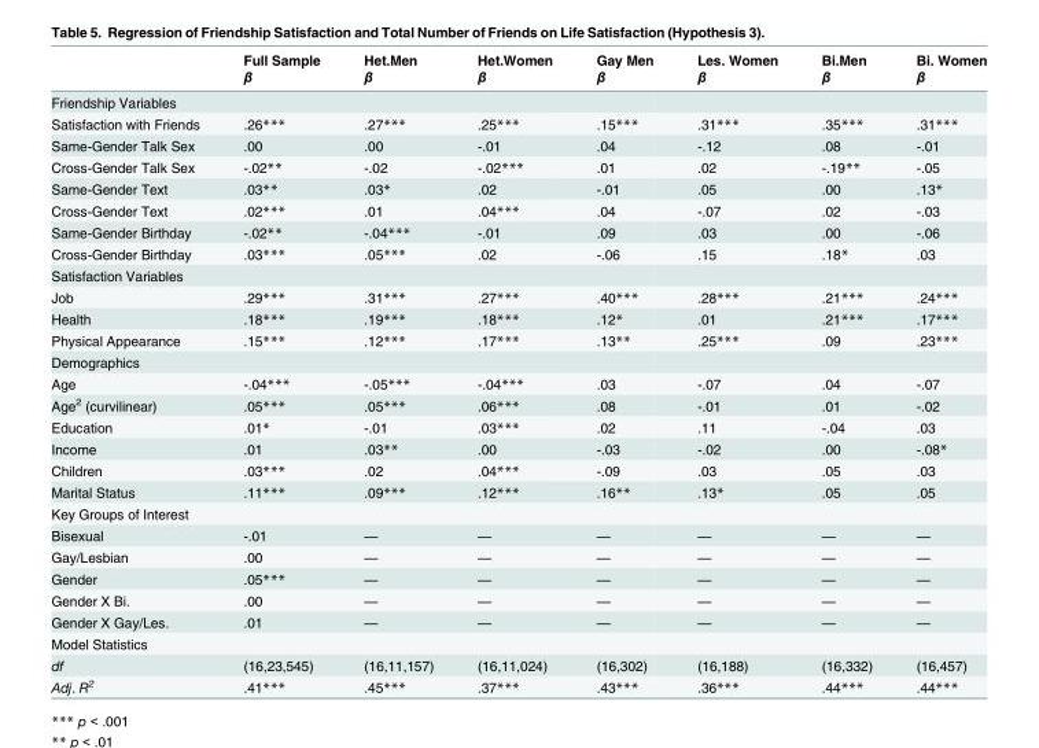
<table><thead><tr><td rowspan="2"></td><td rowspan="2">Full Sample β</td><td rowspan="2">Het.Men β</td><td rowspan="2">Het.Women β</td><td rowspan="2">Gay Men β</td><td rowspan="2">Les. Women β</td><td rowspan="2">Bi.Men β</td><td rowspan="2">Bi. Women β</td></tr><tr></tr></thead><tbody><tr><td colspan="8">Friendship Variables</td></tr><tr><td>Satisfaction with Friends</td><td>.26***</td><td>.27***</td><td>.25***</td><td>.15***</td><td>.31***</td><td>.35***</td><td>.31***</td></tr><tr><td>Same-Gender Talk Sex</td><td>.00</td><td>.00</td><td>-.01</td><td>.04</td><td>-.12</td><td>.08</td><td>-.01</td></tr><tr><td>Cross-Gender Talk Sex</td><td>-.02**</td><td>-.02</td><td>-.02***</td><td>.01</td><td>.02</td><td>-.19**</td><td>-.05</td></tr><tr><td>Same-Gender Text</td><td>.03**</td><td>.03*</td><td>.02</td><td>-.01</td><td>.05</td><td>.00</td><td>.13*</td></tr><tr><td>Cross-Gender Text</td><td>.02***</td><td>.01</td><td>.04***</td><td>.04</td><td>-.07</td><td>.02</td><td>-.03</td></tr><tr><td>Same-Gender Birthday</td><td>-.02**</td><td>-.04***</td><td>-.01</td><td>.09</td><td>.03</td><td>.00</td><td>-.06</td></tr><tr><td>Cross-Gender Birthday</td><td>.03***</td><td>.05***</td><td>.02</td><td>-.06</td><td>.15</td><td>.18*</td><td>.03</td></tr><tr><td colspan="8">Satisfaction Variables</td></tr><tr><td>Job</td><td>.29***</td><td>.31***</td><td>.27***</td><td>.40***</td><td>.28***</td><td>.21***</td><td>.24***</td></tr><tr><td>Health</td><td>.18***</td><td>.19***</td><td>.18***</td><td>.12*</td><td>.01</td><td>.21***</td><td>.17***</td></tr><tr><td>Physical Appearance</td><td>.15***</td><td>.12***</td><td>.17***</td><td>.13**</td><td>.25***</td><td>.09</td><td>.23***</td></tr><tr><td colspan="8">Demographics</td></tr><tr><td>Age</td><td>-.04***</td><td>-.05***</td><td>-.04***</td><td>.03</td><td>-.07</td><td>.04</td><td>-.07</td></tr><tr><td>Age<sup>2</sup> (curvilinear)</td><td>.05***</td><td>.05***</td><td>.06***</td><td>.08</td><td>-.01</td><td>.01</td><td>-.02</td></tr><tr><td>Education</td><td>.01*</td><td>-.01</td><td>.03***</td><td>.02</td><td>.11</td><td>-.04</td><td>.03</td></tr><tr><td>Income</td><td>.01</td><td>.03**</td><td>.00</td><td>-.03</td><td>-.02</td><td>.00</td><td>-.08*</td></tr><tr><td>Children</td><td>.03***</td><td>.02</td><td>.04***</td><td>-.09</td><td>.03</td><td>.05</td><td>.03</td></tr><tr><td>Marital Status</td><td>.11***</td><td>.09***</td><td>.12***</td><td>.16**</td><td>.13*</td><td>.05</td><td>.05</td></tr><tr><td colspan="8">Key Groups of Interest</td></tr><tr><td>Bisexual</td><td>-.01</td><td>—</td><td>—</td><td>—</td><td>—</td><td>—</td><td>—</td></tr><tr><td>Gay/Lesbian</td><td>.00</td><td>—</td><td>—</td><td>—</td><td>—</td><td>—</td><td>—</td></tr><tr><td>Gender</td><td>.05***</td><td>—</td><td>—</td><td>—</td><td>—</td><td>—</td><td>—</td></tr><tr><td>Gender X Bi.</td><td>.00</td><td>—</td><td>—</td><td>—</td><td>—</td><td>—</td><td>—</td></tr><tr><td>Gender X Gay/Les.</td><td>.01</td><td>—</td><td>—</td><td>—</td><td>—</td><td>—</td><td>—</td></tr><tr><td colspan="8">Model Statistics</td></tr><tr><td>df</td><td>(16,23,545)</td><td>(16,11,157)</td><td>(16,11,024)</td><td>(16,302)</td><td>(16,188)</td><td>(16,332)</td><td>(16,457)</td></tr><tr><td>Adj. R<sup>2</sup></td><td>.41***</td><td>.45***</td><td>.37***</td><td>.43***</td><td>.36***</td><td>.44***</td><td>.44***</td></tr></tbody></table>